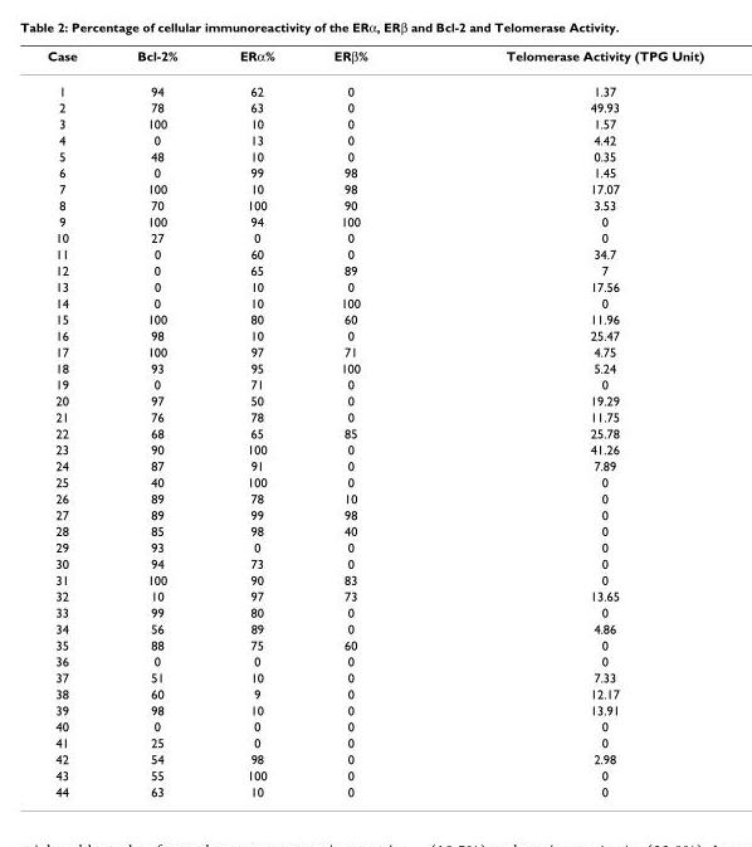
<table><thead><tr><td>Case</td><td>Bcl-2%</td><td>ERα%</td><td>ERβ%</td><td>Telomerase Activity (TPG Unit)</td></tr></thead><tbody><tr><td>1</td><td>94</td><td>62</td><td>0</td><td>1.37</td></tr><tr><td>2</td><td>78</td><td>63</td><td>0</td><td>49.93</td></tr><tr><td>3</td><td>100</td><td>10</td><td>0</td><td>1.57</td></tr><tr><td>4</td><td>0</td><td>13</td><td>0</td><td>4.42</td></tr><tr><td>5</td><td>48</td><td>10</td><td>0</td><td>0.35</td></tr><tr><td>6</td><td>0</td><td>99</td><td>98</td><td>1.45</td></tr><tr><td>7</td><td>100</td><td>10</td><td>98</td><td>17.07</td></tr><tr><td>8</td><td>70</td><td>100</td><td>90</td><td>3.53</td></tr><tr><td>9</td><td>100</td><td>94</td><td>100</td><td>0</td></tr><tr><td>10</td><td>27</td><td>0</td><td>0</td><td>0</td></tr><tr><td>11</td><td>0</td><td>60</td><td>0</td><td>34.7</td></tr><tr><td>12</td><td>0</td><td>65</td><td>89</td><td>7</td></tr><tr><td>13</td><td>0</td><td>10</td><td>0</td><td>17.56</td></tr><tr><td>14</td><td>0</td><td>10</td><td>100</td><td>0</td></tr><tr><td>15</td><td>100</td><td>80</td><td>60</td><td>11.96</td></tr><tr><td>16</td><td>98</td><td>10</td><td>0</td><td>25.47</td></tr><tr><td>17</td><td>100</td><td>97</td><td>71</td><td>4.75</td></tr><tr><td>18</td><td>93</td><td>95</td><td>100</td><td>5.24</td></tr><tr><td>19</td><td>0</td><td>71</td><td>0</td><td>0</td></tr><tr><td>20</td><td>97</td><td>50</td><td>0</td><td>19.29</td></tr><tr><td>21</td><td>76</td><td>78</td><td>0</td><td>11.75</td></tr><tr><td>22</td><td>68</td><td>65</td><td>85</td><td>25.78</td></tr><tr><td>23</td><td>90</td><td>100</td><td>0</td><td>41.26</td></tr><tr><td>24</td><td>87</td><td>91</td><td>0</td><td>7.89</td></tr><tr><td>25</td><td>40</td><td>100</td><td>0</td><td>0</td></tr><tr><td>26</td><td>89</td><td>78</td><td>10</td><td>0</td></tr><tr><td>27</td><td>89</td><td>99</td><td>98</td><td>0</td></tr><tr><td>28</td><td>85</td><td>98</td><td>40</td><td>0</td></tr><tr><td>29</td><td>93</td><td>0</td><td>0</td><td>0</td></tr><tr><td>30</td><td>94</td><td>73</td><td>0</td><td>0</td></tr><tr><td>31</td><td>100</td><td>90</td><td>83</td><td>0</td></tr><tr><td>32</td><td>10</td><td>97</td><td>73</td><td>13.65</td></tr><tr><td>33</td><td>99</td><td>80</td><td>0</td><td>0</td></tr><tr><td>34</td><td>56</td><td>89</td><td>0</td><td>4.86</td></tr><tr><td>35</td><td>88</td><td>75</td><td>60</td><td>0</td></tr><tr><td>36</td><td>0</td><td>0</td><td>0</td><td>0</td></tr><tr><td>37</td><td>51</td><td>10</td><td>0</td><td>7.33</td></tr><tr><td>38</td><td>60</td><td>9</td><td>0</td><td>12.17</td></tr><tr><td>39</td><td>98</td><td>10</td><td>0</td><td>13.91</td></tr><tr><td>40</td><td>0</td><td>0</td><td>0</td><td>0</td></tr><tr><td>41</td><td>25</td><td>0</td><td>0</td><td>0</td></tr><tr><td>42</td><td>54</td><td>98</td><td>0</td><td>2.98</td></tr><tr><td>43</td><td>55</td><td>100</td><td>0</td><td>0</td></tr><tr><td>44</td><td>63</td><td>10</td><td>0</td><td>0</td></tr></tbody></table>